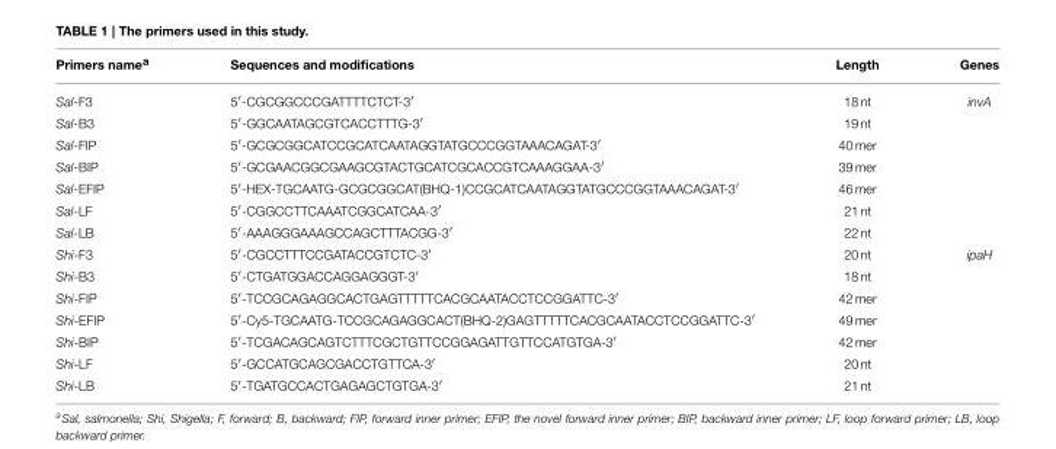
<table><thead><tr><td>Primers name<sup>a</sup></td><td>Sequences and modifications</td><td>Length</td><td>Genes</td></tr></thead><tbody><tr><td>Sal-F3</td><td>5′-CGCGGCCCGATTTTCTCT-3′</td><td>18 nt</td><td>invA</td></tr><tr><td>Sal-B3</td><td>5′-GGCAATAGCGTCACCTTTG-3′</td><td>19 nt</td><td></td></tr><tr><td>Sal-FIP</td><td>5′-GCGCGGCATCCGCATCAATAGGTATGCCCGGTAAACAGAT-3′</td><td>40 mer</td><td></td></tr><tr><td>Sal-BIP</td><td>5′-GCGAACGGCGAAGCGTACTGCATCGCACCGTCAAAGGAA-3′</td><td>39 mer</td><td></td></tr><tr><td>Sal-EFIP</td><td>5′-HEX-TGCAATG-GCGCGGCAT(BHQ-1)CCGCATCAATAGGTATGCCCGGTAAACAGAT-3′</td><td>46 mer</td><td></td></tr><tr><td>Sal-LF</td><td>5′-CGGCCTTCAAATCGGCATCAA-3′</td><td>21 nt</td><td></td></tr><tr><td>Sal-LB</td><td>5′-AAAGGGAAAGCCAGCTTTACGG-3′</td><td>22 nt</td><td></td></tr><tr><td>Shi-F3</td><td>5′-CGCCTTTCCGATACCGTCTC-3′</td><td>20 nt</td><td>ipaH</td></tr><tr><td>Shi-B3</td><td>5′-CTGATGGACCAGGAGGGT-3′</td><td>18 nt</td><td></td></tr><tr><td>Shi-FIP</td><td>5′-TCCGCAGAGGCACTGAGTTTTTCACGCAATACCTCCGGATTC-3′</td><td>42 mer</td><td></td></tr><tr><td>Shi-EFIP</td><td>5′-Cy5-TGCAATG-TCCGCAGAGGCACT(BHQ-2)GAGTTTTTCACGCAATACCTCCGGATTC-3′</td><td>49 mer</td><td></td></tr><tr><td>Shi-BIP</td><td>5′-TCGACAGCAGTCTTTCGCTGTTCCGGAGATTGTTCCATGTGA-3′</td><td>42 mer</td><td></td></tr><tr><td>Shi-LF</td><td>5′-GCCATGCAGCGACCTGTTCA-3′</td><td>20 nt</td><td></td></tr><tr><td>Shi-LB</td><td>5′-TGATGCCACTGAGAGCTGTGA-3′</td><td>21 nt</td><td></td></tr></tbody></table>